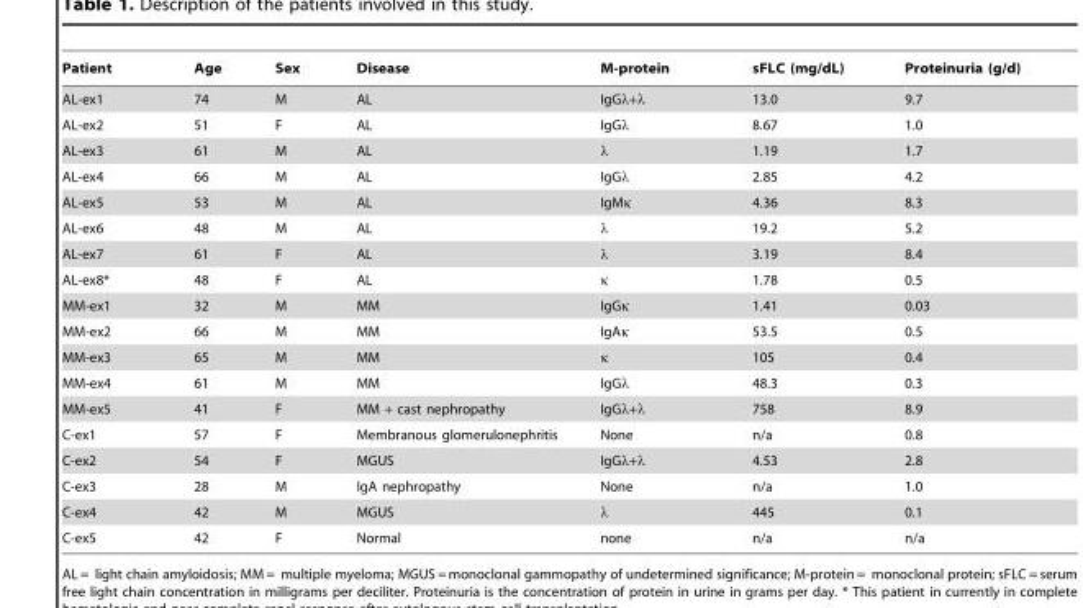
<table><thead><tr><td>Patient</td><td>Age</td><td>Sex</td><td>Disease</td><td>M-protein</td><td>sFLC (mg/dL)</td><td>Proteinuria (g/d)</td></tr></thead><tbody><tr><td>AL-ex1</td><td>74</td><td>M</td><td>AL</td><td>IgGλ+λ</td><td>13.0</td><td>9.7</td></tr><tr><td>AL-ex2</td><td>51</td><td>F</td><td>AL</td><td>IgGλ</td><td>8.67</td><td>1.0</td></tr><tr><td>AL-ex3</td><td>61</td><td>M</td><td>AL</td><td>λ</td><td>1.19</td><td>1.7</td></tr><tr><td>AL-ex4</td><td>66</td><td>M</td><td>AL</td><td>IgGλ</td><td>2.85</td><td>4.2</td></tr><tr><td>AL-ex5</td><td>53</td><td>M</td><td>AL</td><td>IgMκ</td><td>4.36</td><td>8.3</td></tr><tr><td>AL-ex6</td><td>48</td><td>M</td><td>AL</td><td>λ</td><td>19.2</td><td>5.2</td></tr><tr><td>AL-ex7</td><td>61</td><td>F</td><td>AL</td><td>λ</td><td>3.19</td><td>8.4</td></tr><tr><td>AL-ex8*</td><td>48</td><td>F</td><td>AL</td><td>κ</td><td>1.78</td><td>0.5</td></tr><tr><td>MM-ex1</td><td>32</td><td>M</td><td>MM</td><td>IgGκ</td><td>1.41</td><td>0.03</td></tr><tr><td>MM-ex2</td><td>66</td><td>M</td><td>MM</td><td>IgAκ</td><td>53.5</td><td>0.5</td></tr><tr><td>MM-ex3</td><td>65</td><td>M</td><td>MM</td><td>κ</td><td>105</td><td>0.4</td></tr><tr><td>MM-ex4</td><td>61</td><td>M</td><td>MM</td><td>IgGλ</td><td>48.3</td><td>0.3</td></tr><tr><td>MM-ex5</td><td>41</td><td>F</td><td>MM + cast nephropathy</td><td>IgGλ+λ</td><td>758</td><td>8.9</td></tr><tr><td>C-ex1</td><td>57</td><td>F</td><td>Membranous glomerulonephritis</td><td>None</td><td>n/a</td><td>0.8</td></tr><tr><td>C-ex2</td><td>54</td><td>F</td><td>MGUS</td><td>IgGλ+λ</td><td>4.53</td><td>2.8</td></tr><tr><td>C-ex3</td><td>28</td><td>M</td><td>IgA nephropathy</td><td>None</td><td>n/a</td><td>1.0</td></tr><tr><td>C-ex4</td><td>42</td><td>M</td><td>MGUS</td><td>λ</td><td>445</td><td>0.1</td></tr><tr><td>C-ex5</td><td>42</td><td>F</td><td>Normal</td><td>none</td><td>n/a</td><td>n/a</td></tr></tbody></table>